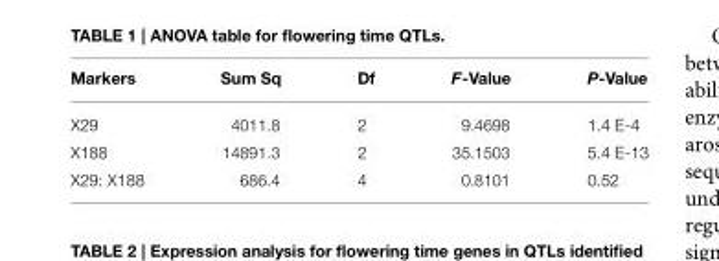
<table><thead><tr><td>Markers</td><td>Sum Sq</td><td>Df</td><td>F-Value</td><td>P-Value</td></tr></thead><tbody><tr><td>X29</td><td>4011.8</td><td>2</td><td>9.4698</td><td>1.4 E-4</td></tr><tr><td>X188</td><td>14891.3</td><td>2</td><td>35.1503</td><td>5.4 E-13</td></tr><tr><td>X29: X188</td><td>686.4</td><td>4</td><td>0.8101</td><td>0.52</td></tr></tbody></table>